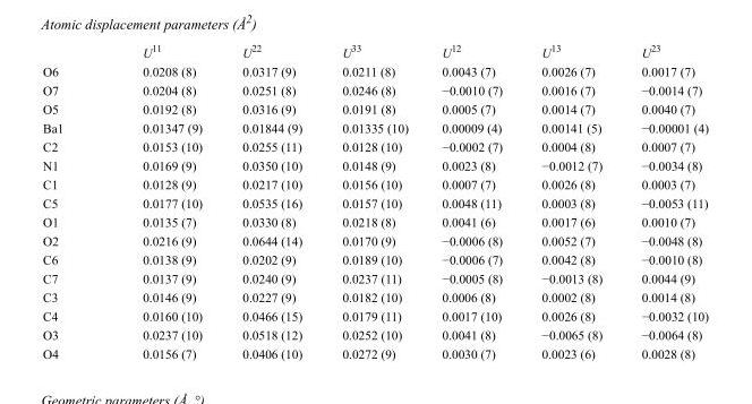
<table><thead><tr><td></td><td>U<sup>11</sup></td><td>U<sup>22</sup></td><td>U<sup>33</sup></td><td>U<sup>12</sup></td><td>U<sup>13</sup></td><td>U<sup>23</sup></td></tr></thead><tbody><tr><td>O6</td><td>0.0208 (8)</td><td>0.0317 (9)</td><td>0.0211 (8)</td><td>0.0043 (7)</td><td>0.0026 (7)</td><td>0.0017 (7)</td></tr><tr><td>O7</td><td>0.0204 (8)</td><td>0.0251 (8)</td><td>0.0246 (8)</td><td>−0.0010 (7)</td><td>0.0016 (7)</td><td>−0.0014 (7)</td></tr><tr><td>O5</td><td>0.0192 (8)</td><td>0.0316 (9)</td><td>0.0191 (8)</td><td>0.0005 (7)</td><td>0.0014 (7)</td><td>0.0040 (7)</td></tr><tr><td>Ba1</td><td>0.01347 (9)</td><td>0.01844 (9)</td><td>0.01335 (10)</td><td>0.00009 (4)</td><td>0.00141 (5)</td><td>−0.00001 (4)</td></tr><tr><td>C2</td><td>0.0153 (10)</td><td>0.0255 (11)</td><td>0.0128 (10)</td><td>−0.0002 (7)</td><td>0.0004 (8)</td><td>0.0007 (7)</td></tr><tr><td>N1</td><td>0.0169 (9)</td><td>0.0350 (10)</td><td>0.0148 (9)</td><td>0.0023 (8)</td><td>−0.0012 (7)</td><td>−0.0034 (8)</td></tr><tr><td>C1</td><td>0.0128 (9)</td><td>0.0217 (10)</td><td>0.0156 (10)</td><td>0.0007 (7)</td><td>0.0026 (8)</td><td>0.0003 (7)</td></tr><tr><td>C5</td><td>0.0177 (10)</td><td>0.0535 (16)</td><td>0.0157 (10)</td><td>0.0048 (11)</td><td>0.0003 (8)</td><td>−0.0053 (11)</td></tr><tr><td>O1</td><td>0.0135 (7)</td><td>0.0330 (8)</td><td>0.0218 (8)</td><td>0.0041 (6)</td><td>0.0017 (6)</td><td>0.0010 (7)</td></tr><tr><td>O2</td><td>0.0216 (9)</td><td>0.0644 (14)</td><td>0.0170 (9)</td><td>−0.0006 (8)</td><td>0.0052 (7)</td><td>−0.0048 (8)</td></tr><tr><td>C6</td><td>0.0138 (9)</td><td>0.0202 (9)</td><td>0.0189 (10)</td><td>−0.0006 (7)</td><td>0.0042 (8)</td><td>−0.0010 (8)</td></tr><tr><td>C7</td><td>0.0137 (9)</td><td>0.0240 (9)</td><td>0.0237 (11)</td><td>−0.0005 (8)</td><td>−0.0013 (8)</td><td>0.0044 (9)</td></tr><tr><td>C3</td><td>0.0146 (9)</td><td>0.0227 (9)</td><td>0.0182 (10)</td><td>0.0006 (8)</td><td>0.0002 (8)</td><td>0.0014 (8)</td></tr><tr><td>C4</td><td>0.0160 (10)</td><td>0.0466 (15)</td><td>0.0179 (11)</td><td>0.0017 (10)</td><td>0.0026 (8)</td><td>−0.0032 (10)</td></tr><tr><td>O3</td><td>0.0237 (10)</td><td>0.0518 (12)</td><td>0.0252 (10)</td><td>0.0041 (8)</td><td>−0.0065 (8)</td><td>−0.0064 (8)</td></tr><tr><td>O4</td><td>0.0156 (7)</td><td>0.0406 (10)</td><td>0.0272 (9)</td><td>0.0030 (7)</td><td>0.0023 (6)</td><td>0.0028 (8)</td></tr></tbody></table>